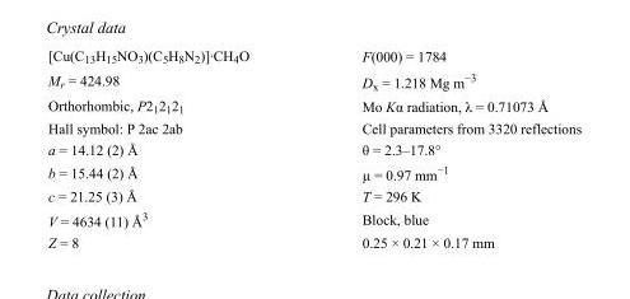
<table><tbody><tr><td>[Cu(C<sub>13</sub>H<sub>15</sub>NO<sub>3</sub>)(C<sub>5</sub>H<sub>8</sub>N<sub>2</sub>)]·CH<sub>4</sub>O</td><td>F(000) = 1784</td></tr><tr><td>M<sub>r</sub> = 424.98</td><td>D<sub>x</sub> = 1.218 Mg m<sup>−3</sup></td></tr><tr><td>Orthorhombic, P2<sub>1</sub>2<sub>1</sub>2<sub>1</sub></td><td>Mo Kα radiation, λ = 0.71073 Å</td></tr><tr><td>Hall symbol: P 2ac 2ab</td><td>Cell parameters from 3320 reflections</td></tr><tr><td>a = 14.12 (2) Å</td><td>θ = 2.3–17.8°</td></tr><tr><td>b = 15.44 (2) Å</td><td>µ = 0.97 mm<sup>−1</sup></td></tr><tr><td>c = 21.25 (3) Å</td><td>T = 296 K</td></tr><tr><td>V = 4634 (11) Å<sup>3</sup></td><td>Block, blue</td></tr><tr><td>Z = 8</td><td>0.25 × 0.21 × 0.17 mm</td></tr></tbody></table>